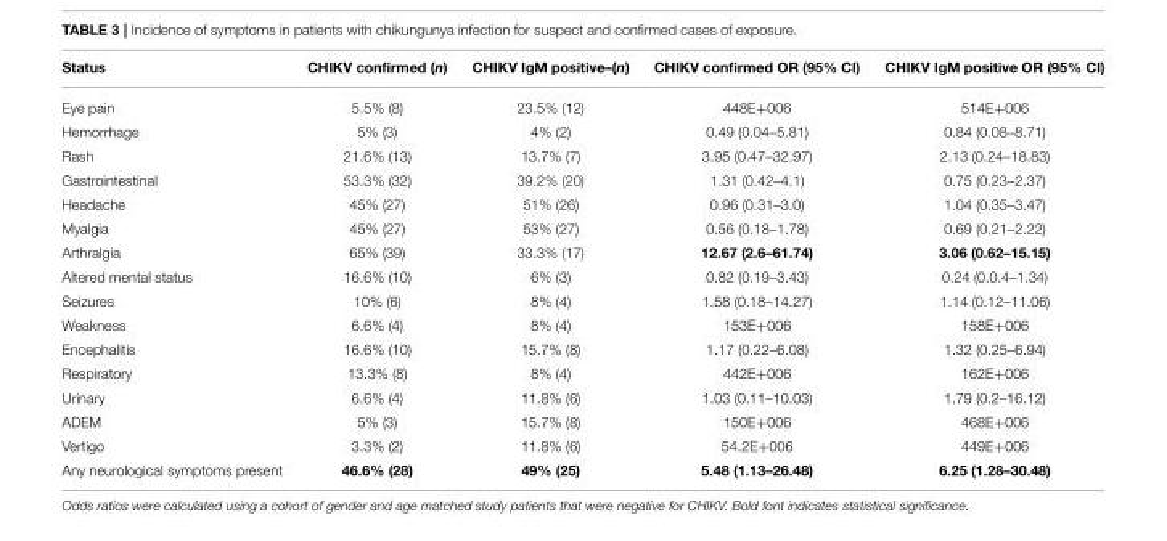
<table><thead><tr><td>Status</td><td>CHIKV confirmed (n)</td><td>CHIKV IgM positive–(n)</td><td>CHIKV confirmed OR (95% CI)</td><td>CHIKV IgM positive OR (95% CI)</td></tr></thead><tbody><tr><td>Eye pain</td><td>5.5% (8)</td><td>23.5% (12)</td><td>448E+006</td><td>514E+006</td></tr><tr><td>Hemorrhage</td><td>5% (3)</td><td>4% (2)</td><td>0.49 (0.04–5.81)</td><td>0.84 (0.08–8.71)</td></tr><tr><td>Rash</td><td>21.6% (13)</td><td>13.7% (7)</td><td>3.95 (0.47–32.97)</td><td>2.13 (0.24–18.83)</td></tr><tr><td>Gastrointestinal</td><td>53.3% (32)</td><td>39.2% (20)</td><td>1.31 (0.42–4.1)</td><td>0.75 (0.23–2.37)</td></tr><tr><td>Headache</td><td>45% (27)</td><td>51% (26)</td><td>0.96 (0.31–3.0)</td><td>1.04 (0.35–3.47)</td></tr><tr><td>Myalgia</td><td>45% (27)</td><td>53% (27)</td><td>0.56 (0.18–1.78)</td><td>0.69 (0.21–2.22)</td></tr><tr><td>Arthralgia</td><td>65% (39)</td><td>33.3% (17)</td><td>12.67 (2.6–61.74)</td><td>3.06 (0.62–15.15)</td></tr><tr><td>Altered mental status</td><td>16.6% (10)</td><td>6% (3)</td><td>0.82 (0.19–3.43)</td><td>0.24 (0.0.4–1.34)</td></tr><tr><td>Seizures</td><td>10% (6)</td><td>8% (4)</td><td>1.58 (0.18–14.27)</td><td>1.14 (0.12–11.06)</td></tr><tr><td>Weakness</td><td>6.6% (4)</td><td>8% (4)</td><td>153E+006</td><td>158E+006</td></tr><tr><td>Encephalitis</td><td>16.6% (10)</td><td>15.7% (8)</td><td>1.17 (0.22–6.08)</td><td>1.32 (0.25–6.94)</td></tr><tr><td>Respiratory</td><td>13.3% (8)</td><td>8% (4)</td><td>442E+006</td><td>162E+006</td></tr><tr><td>Urinary</td><td>6.6% (4)</td><td>11.8% (6)</td><td>1.03 (0.11–10.03)</td><td>1.79 (0.2–16.12)</td></tr><tr><td>ADEM</td><td>5% (3)</td><td>15.7% (8)</td><td>150E+006</td><td>468E+006</td></tr><tr><td>Vertigo</td><td>3.3% (2)</td><td>11.8% (6)</td><td>54.2E+006</td><td>449E+006</td></tr><tr><td>Any neurological symptoms present</td><td>46.6% (28)</td><td>49% (25)</td><td>5.48 (1.13–26.48)</td><td>6.25 (1.28–30.48)</td></tr></tbody></table>